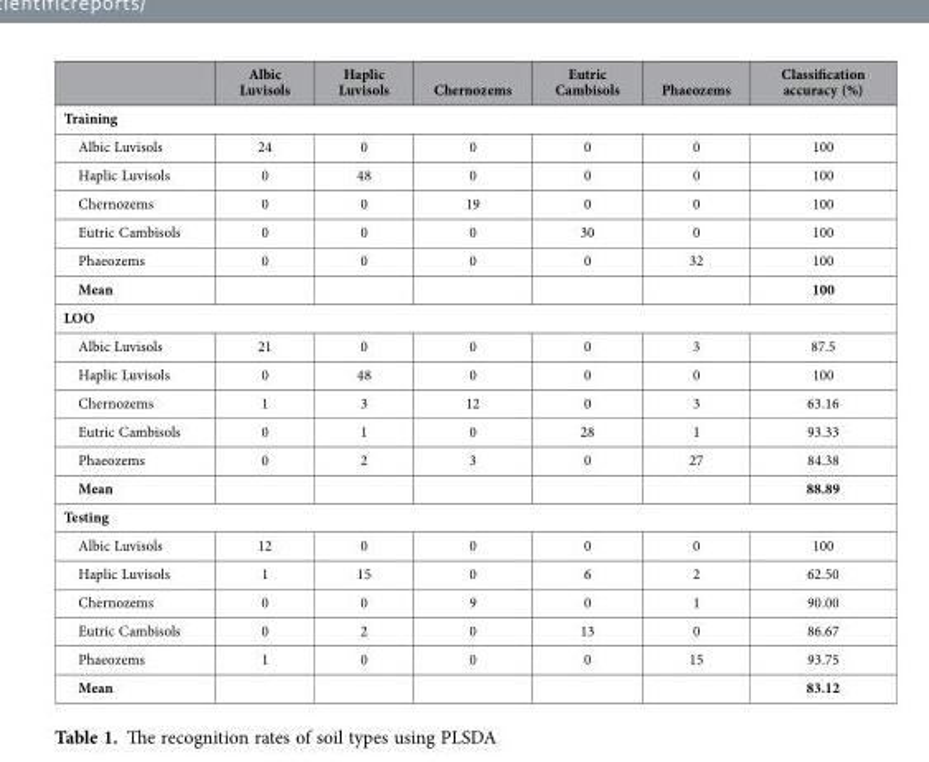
<table><thead><tr><td></td><td>Albic Luvisols</td><td>Haplic Luvisols</td><td>Chernozems</td><td>Eutric Cambisols</td><td>Phaeozems</td><td>Classification accuracy (%)</td></tr></thead><tbody><tr><td colspan="7">Training</td></tr><tr><td>Albic Luvisols</td><td>24</td><td>0</td><td>0</td><td>0</td><td>0</td><td>100</td></tr><tr><td>Haplic Luvisols</td><td>0</td><td>48</td><td>0</td><td>0</td><td>0</td><td>100</td></tr><tr><td>Chernozems</td><td>0</td><td>0</td><td>19</td><td>0</td><td>0</td><td>100</td></tr><tr><td>Eutric Cambisols</td><td>0</td><td>0</td><td>0</td><td>30</td><td>0</td><td>100</td></tr><tr><td>Phaeozems</td><td>0</td><td>0</td><td>0</td><td>0</td><td>32</td><td>100</td></tr><tr><td>Mean</td><td></td><td></td><td></td><td></td><td></td><td>100</td></tr><tr><td colspan="7">LOO</td></tr><tr><td>Albic Luvisols</td><td>21</td><td>0</td><td>0</td><td>0</td><td>3</td><td>87.5</td></tr><tr><td>Haplic Luvisols</td><td>0</td><td>48</td><td>0</td><td>0</td><td>0</td><td>100</td></tr><tr><td>Chernozems</td><td>1</td><td>3</td><td>12</td><td>0</td><td>3</td><td>63.16</td></tr><tr><td>Eutric Cambisols</td><td>0</td><td>1</td><td>0</td><td>28</td><td>1</td><td>93.33</td></tr><tr><td>Phaeozems</td><td>0</td><td>2</td><td>3</td><td>0</td><td>27</td><td>84.38</td></tr><tr><td>Mean</td><td></td><td></td><td></td><td></td><td></td><td>88.89</td></tr><tr><td colspan="7">Testing</td></tr><tr><td>Albic Luvisols</td><td>12</td><td>0</td><td>0</td><td>0</td><td>0</td><td>100</td></tr><tr><td>Haplic Luvisols</td><td>1</td><td>15</td><td>0</td><td>6</td><td>2</td><td>62.50</td></tr><tr><td>Chernozems</td><td>0</td><td>0</td><td>9</td><td>0</td><td>1</td><td>90.00</td></tr><tr><td>Eutric Cambisols</td><td>0</td><td>2</td><td>0</td><td>13</td><td>0</td><td>86.67</td></tr><tr><td>Phaeozems</td><td>1</td><td>0</td><td>0</td><td>0</td><td>15</td><td>93.75</td></tr><tr><td>Mean</td><td></td><td></td><td></td><td></td><td></td><td>83.12</td></tr></tbody></table>